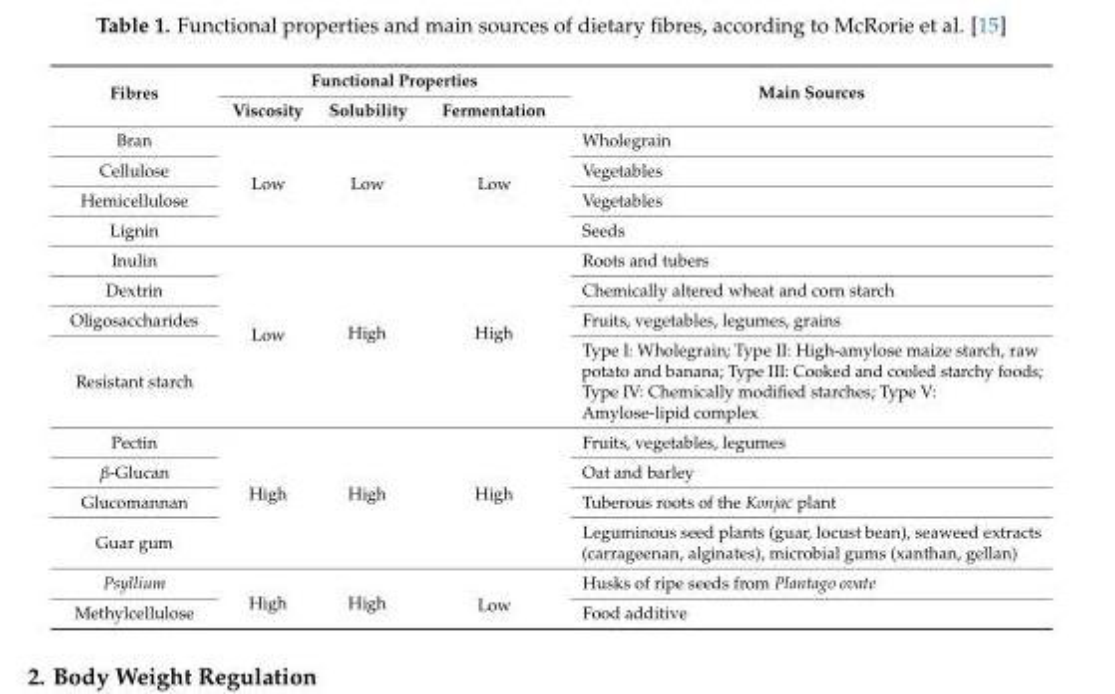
<table><thead><tr><td rowspan="2">Fibres</td><td colspan="3">Functional Properties</td><td rowspan="2">Main Sources</td></tr><tr><td>Viscosity</td><td>Solubility</td><td>Fermentation</td></tr></thead><tbody><tr><td>Bran</td><td rowspan="4">Low</td><td rowspan="4">Low</td><td rowspan="4">Low</td><td>Wholegrain</td></tr><tr><td>Cellulose</td><td>Vegetables</td></tr><tr><td>Hemicellulose</td><td>Vegetables</td></tr><tr><td>Lignin</td><td>Seeds</td></tr><tr><td>Inulin</td><td rowspan="4">Low</td><td rowspan="4">High</td><td rowspan="4">High</td><td>Roots and tubers</td></tr><tr><td>Dextrin</td><td>Chemically altered wheat and corn starch</td></tr><tr><td>Oligosaccharides</td><td>Fruits, vegetables, legumes, grains</td></tr><tr><td>Resistant starch</td><td>Type I: Wholegrain; Type II: High-amylose maize starch, raw potato and banana; Type III: Cooked and cooled starchy foods; Type IV: Chemically modified starches; Type V: Amylose-lipid complex</td></tr><tr><td>Pectin</td><td rowspan="4">High</td><td rowspan="4">High</td><td rowspan="4">High</td><td>Fruits, vegetables, legumes</td></tr><tr><td>β-Glucan</td><td>Oat and barley</td></tr><tr><td>Glucomannan</td><td>Tuberous roots of the Konjac plant</td></tr><tr><td>Guar gum</td><td>Leguminous seed plants (guar, locust bean), seaweed extracts (carrageenan, alginates), microbial gums (xanthan, gellan)</td></tr><tr><td>Psyllium</td><td rowspan="2">High</td><td rowspan="2">High</td><td rowspan="2">Low</td><td>Husks of ripe seeds from Plantago ovate</td></tr><tr><td>Methylcellulose</td><td>Food additive</td></tr></tbody></table>